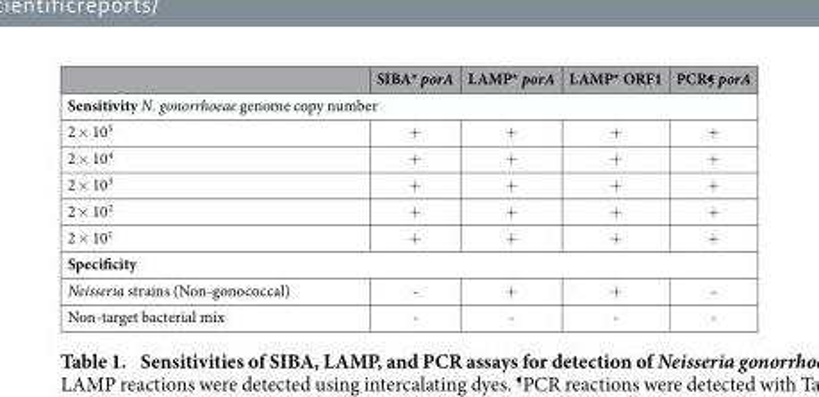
<table><thead><tr><td></td><td>SIBA* porA</td><td>LAMP* porA</td><td>LAMP* ORF1</td><td>PCR¶ porA</td></tr></thead><tbody><tr><td colspan="5">Sensitivity N. gonorrhoeae genome copy number</td></tr><tr><td>2 × 10<sup>5</sup></td><td>+</td><td>+</td><td>+</td><td>+</td></tr><tr><td>2 × 10<sup>4</sup></td><td>+</td><td>+</td><td>+</td><td>+</td></tr><tr><td>2 × 10<sup>3</sup></td><td>+</td><td>+</td><td>+</td><td>+</td></tr><tr><td>2 × 10<sup>2</sup></td><td>+</td><td>+</td><td>+</td><td>+</td></tr><tr><td>2 × 10<sup>1</sup></td><td>+</td><td>+</td><td>+</td><td>+</td></tr><tr><td colspan="5">Specificity</td></tr><tr><td>Neisseria strains (Non-gonococcal)</td><td>-</td><td>+</td><td>+</td><td>-</td></tr><tr><td>Non-target bacterial mix</td><td>-</td><td>-</td><td>-</td><td>-</td></tr></tbody></table>